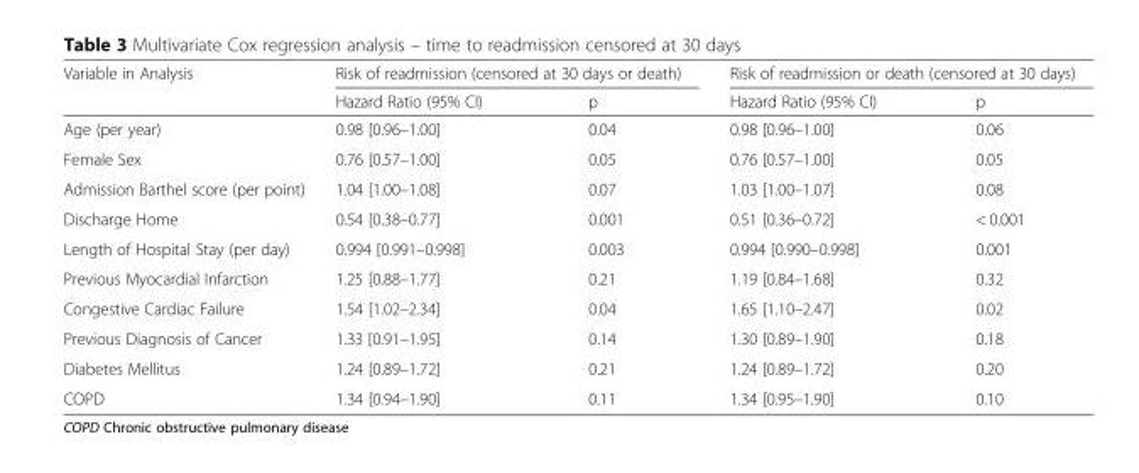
<table><thead><tr><td rowspan="2">Variable in Analysis</td><td colspan="2">Risk of readmission (censored at 30 days or death)</td><td colspan="2">Risk of readmission or death (censored at 30 days)</td></tr><tr><td>Hazard Ratio (95% CI)</td><td>p</td><td>Hazard Ratio (95% CI)</td><td>p</td></tr></thead><tbody><tr><td>Age (per year)</td><td>0.98 [0.96–1.00]</td><td>0.04</td><td>0.98 [0.96–1.00]</td><td>0.06</td></tr><tr><td>Female Sex</td><td>0.76 [0.57–1.00]</td><td>0.05</td><td>0.76 [0.57–1.00]</td><td>0.05</td></tr><tr><td>Admission Barthel score (per point)</td><td>1.04 [1.00–1.08]</td><td>0.07</td><td>1.03 [1.00–1.07]</td><td>0.08</td></tr><tr><td>Discharge Home</td><td>0.54 [0.38–0.77]</td><td>0.001</td><td>0.51 [0.36–0.72]</td><td>&lt; 0.001</td></tr><tr><td>Length of Hospital Stay (per day)</td><td>0.994 [0.991–0.998]</td><td>0.003</td><td>0.994 [0.990–0.998]</td><td>0.001</td></tr><tr><td>Previous Myocardial Infarction</td><td>1.25 [0.88–1.77]</td><td>0.21</td><td>1.19 [0.84–1.68]</td><td>0.32</td></tr><tr><td>Congestive Cardiac Failure</td><td>1.54 [1.02–2.34]</td><td>0.04</td><td>1.65 [1.10–2.47]</td><td>0.02</td></tr><tr><td>Previous Diagnosis of Cancer</td><td>1.33 [0.91–1.95]</td><td>0.14</td><td>1.30 [0.89–1.90]</td><td>0.18</td></tr><tr><td>Diabetes Mellitus</td><td>1.24 [0.89–1.72]</td><td>0.21</td><td>1.24 [0.89–1.72]</td><td>0.20</td></tr><tr><td>COPD</td><td>1.34 [0.94–1.90]</td><td>0.11</td><td>1.34 [0.95–1.90]</td><td>0.10</td></tr></tbody></table>